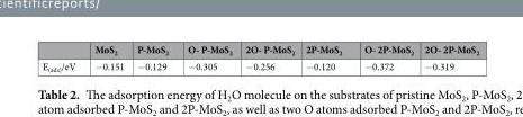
<table><thead><tr><td></td><td>MoS<sub>2</sub></td><td>P-MoS<sub>2</sub></td><td>O- P-MoS<sub>2</sub></td><td>2O- P-MoS<sub>2</sub></td><td>2P-MoS<sub>2</sub></td><td>O- 2P-MoS<sub>2</sub></td><td>2O- 2P-MoS<sub>2</sub></td></tr></thead><tbody><tr><td>E<sub>(ads)</sub>/eV</td><td>−0.151</td><td>−0.129</td><td>−0.305</td><td>−0.256</td><td>−0.120</td><td>−0.372</td><td>−0.319</td></tr></tbody></table>